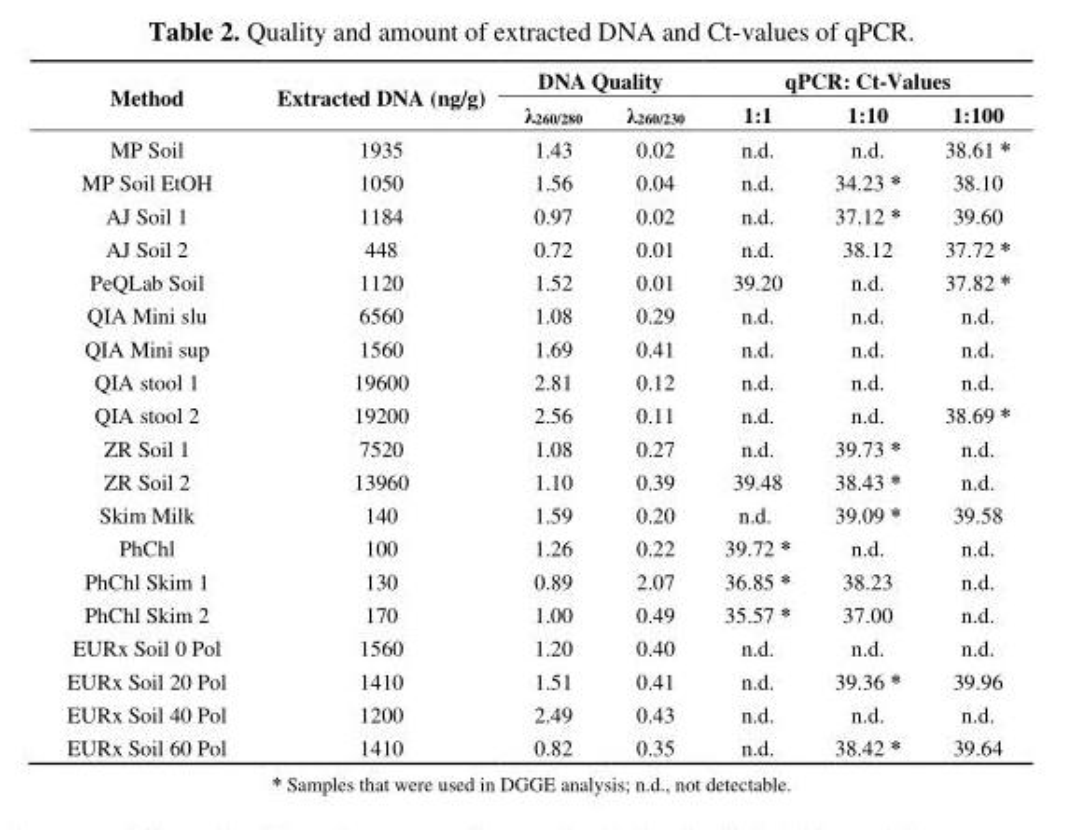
<table><thead><tr><td rowspan="2">Method</td><td rowspan="2">Extracted DNA (ng/g)</td><td colspan="2">DNA Quality</td><td colspan="3">qPCR: Ct-Values</td></tr><tr><td>λ<sub>260/280</sub></td><td>λ<sub>260/230</sub></td><td>1:1</td><td>1:10</td><td>1:100</td></tr></thead><tbody><tr><td>MP Soil</td><td>1935</td><td>1.43</td><td>0.02</td><td>n.d.</td><td>n.d.</td><td>38.61 *</td></tr><tr><td>MP Soil EtOH</td><td>1050</td><td>1.56</td><td>0.04</td><td>n.d.</td><td>34.23 *</td><td>38.10</td></tr><tr><td>AJ Soil 1</td><td>1184</td><td>0.97</td><td>0.02</td><td>n.d.</td><td>37.12 *</td><td>39.60</td></tr><tr><td>AJ Soil 2</td><td>448</td><td>0.72</td><td>0.01</td><td>n.d.</td><td>38.12</td><td>37.72 *</td></tr><tr><td>PeQLab Soil</td><td>1120</td><td>1.52</td><td>0.01</td><td>39.20</td><td>n.d.</td><td>37.82 *</td></tr><tr><td>QIA Mini slu</td><td>6560</td><td>1.08</td><td>0.29</td><td>n.d.</td><td>n.d.</td><td>n.d.</td></tr><tr><td>QIA Mini sup</td><td>1560</td><td>1.69</td><td>0.41</td><td>n.d.</td><td>n.d.</td><td>n.d.</td></tr><tr><td>QIA stool 1</td><td>19600</td><td>2.81</td><td>0.12</td><td>n.d.</td><td>n.d.</td><td>n.d.</td></tr><tr><td>QIA stool 2</td><td>19200</td><td>2.56</td><td>0.11</td><td>n.d.</td><td>n.d.</td><td>38.69 *</td></tr><tr><td>ZR Soil 1</td><td>7520</td><td>1.08</td><td>0.27</td><td>n.d.</td><td>39.73 *</td><td>n.d.</td></tr><tr><td>ZR Soil 2</td><td>13960</td><td>1.10</td><td>0.39</td><td>39.48</td><td>38.43 *</td><td>n.d.</td></tr><tr><td>Skim Milk</td><td>140</td><td>1.59</td><td>0.20</td><td>n.d.</td><td>39.09 *</td><td>39.58</td></tr><tr><td>PhChl</td><td>100</td><td>1.26</td><td>0.22</td><td>39.72 *</td><td>n.d.</td><td>n.d.</td></tr><tr><td>PhChl Skim 1</td><td>130</td><td>0.89</td><td>2.07</td><td>36.85 *</td><td>38.23</td><td>n.d.</td></tr><tr><td>PhChl Skim 2</td><td>170</td><td>1.00</td><td>0.49</td><td>35.57 *</td><td>37.00</td><td>n.d.</td></tr><tr><td>EURx Soil 0 Pol</td><td>1560</td><td>1.20</td><td>0.40</td><td>n.d.</td><td>n.d.</td><td>n.d.</td></tr><tr><td>EURx Soil 20 Pol</td><td>1410</td><td>1.51</td><td>0.41</td><td>n.d.</td><td>39.36 *</td><td>39.96</td></tr><tr><td>EURx Soil 40 Pol</td><td>1200</td><td>2.49</td><td>0.43</td><td>n.d.</td><td>n.d.</td><td>n.d.</td></tr><tr><td>EURx Soil 60 Pol</td><td>1410</td><td>0.82</td><td>0.35</td><td>n.d.</td><td>38.42 *</td><td>39.64</td></tr></tbody></table>